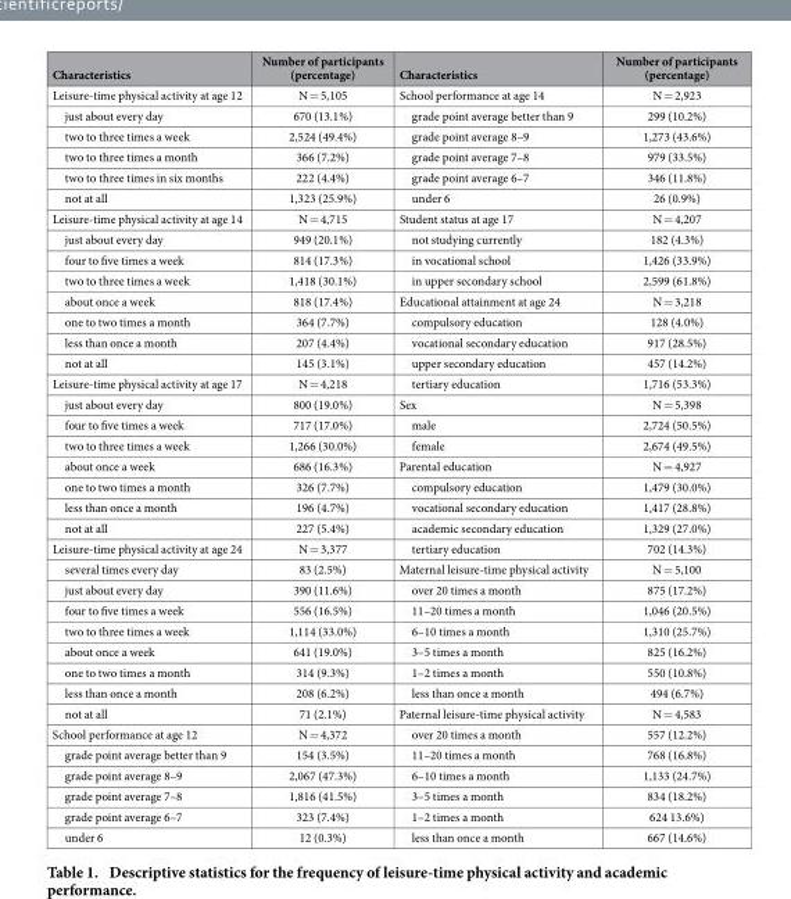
<table><thead><tr><td>Characteristics</td><td>Number of participants (percentage)</td><td>Characteristics</td><td>Number of participants (percentage)</td></tr></thead><tbody><tr><td>Leisure-time physical activity at age 12</td><td>N = 5,105</td><td>School performance at age 14</td><td>N = 2,923</td></tr><tr><td>just about every day</td><td>670 (13.1%)</td><td>grade point average better than 9</td><td>299 (10.2%)</td></tr><tr><td>two to three times a week</td><td>2,524 (49.4%)</td><td>grade point average 8–9</td><td>1,273 (43.6%)</td></tr><tr><td>two to three times a month</td><td>366 (7.2%)</td><td>grade point average 7–8</td><td>979 (33.5%)</td></tr><tr><td>two to three times in six months</td><td>222 (4.4%)</td><td>grade point average 6–7</td><td>346 (11.8%)</td></tr><tr><td>not at all</td><td>1,323 (25.9%)</td><td>under 6</td><td>26 (0.9%)</td></tr><tr><td>Leisure-time physical activity at age 14</td><td>N = 4,715</td><td>Student status at age 17</td><td>N = 4,207</td></tr><tr><td>just about every day</td><td>949 (20.1%)</td><td>not studying currently</td><td>182 (4.3%)</td></tr><tr><td>four to five times a week</td><td>814 (17.3%)</td><td>in vocational school</td><td>1,426 (33.9%)</td></tr><tr><td>two to three times a week</td><td>1,418 (30.1%)</td><td>in upper secondary school</td><td>2,599 (61.8%)</td></tr><tr><td>about once a week</td><td>818 (17.4%)</td><td>Educational attainment at age 24</td><td>N = 3,218</td></tr><tr><td>one to two times a month</td><td>364 (7.7%)</td><td>compulsory education</td><td>128 (4.0%)</td></tr><tr><td>less than once a month</td><td>207 (4.4%)</td><td>vocational secondary education</td><td>917 (28.5%)</td></tr><tr><td>not at all</td><td>145 (3.1%)</td><td>upper secondary education</td><td>457 (14.2%)</td></tr><tr><td>Leisure-time physical activity at age 17</td><td>N = 4,218</td><td>tertiary education</td><td>1,716 (53.3%)</td></tr><tr><td>just about every day</td><td>800 (19.0%)</td><td>Sex</td><td>N = 5,398</td></tr><tr><td>four to five times a week</td><td>717 (17.0%)</td><td>male</td><td>2,724 (50.5%)</td></tr><tr><td>two to three times a week</td><td>1,266 (30.0%)</td><td>female</td><td>2,674 (49.5%)</td></tr><tr><td>about once a week</td><td>686 (16.3%)</td><td>Parental education</td><td>N = 4,927</td></tr><tr><td>one to two times a month</td><td>326 (7.7%)</td><td>compulsory education</td><td>1,479 (30.0%)</td></tr><tr><td>less than once a month</td><td>196 (4.7%)</td><td>vocational secondary education</td><td>1,417 (28.8%)</td></tr><tr><td>not at all</td><td>227 (5.4%)</td><td>academic secondary education</td><td>1,329 (27.0%)</td></tr><tr><td>Leisure-time physical activity at age 24</td><td>N = 3,377</td><td>tertiary education</td><td>702 (14.3%)</td></tr><tr><td>several times every day</td><td>83 (2.5%)</td><td>Maternal leisure-time physical activity</td><td>N = 5,100</td></tr><tr><td>just about every day</td><td>390 (11.6%)</td><td>over 20 times a month</td><td>875 (17.2%)</td></tr><tr><td>four to five times a week</td><td>556 (16.5%)</td><td>11–20 times a month</td><td>1,046 (20.5%)</td></tr><tr><td>two to three times a week</td><td>1,114 (33.0%)</td><td>6–10 times a month</td><td>1,310 (25.7%)</td></tr><tr><td>about once a week</td><td>641 (19.0%)</td><td>3–5 times a month</td><td>825 (16.2%)</td></tr><tr><td>one to two times a month</td><td>314 (9.3%)</td><td>1–2 times a month</td><td>550 (10.8%)</td></tr><tr><td>less than once a month</td><td>208 (6.2%)</td><td>less than once a month</td><td>494 (6.7%)</td></tr><tr><td>not at all</td><td>71 (2.1%)</td><td>Paternal leisure-time physical activity</td><td>N = 4,583</td></tr><tr><td>School performance at age 12</td><td>N = 4,372</td><td>over 20 times a month</td><td>557 (12.2%)</td></tr><tr><td>grade point average better than 9</td><td>154 (3.5%)</td><td>11–20 times a month</td><td>768 (16.8%)</td></tr><tr><td>grade point average 8–9</td><td>2,067 (47.3%)</td><td>6–10 times a month</td><td>1,133 (24.7%)</td></tr><tr><td>grade point average 7–8</td><td>1,816 (41.5%)</td><td>3–5 times a month</td><td>834 (18.2%)</td></tr><tr><td>grade point average 6–7</td><td>323 (7.4%)</td><td>1–2 times a month</td><td>624 13.6%)</td></tr><tr><td>under 6</td><td>12 (0.3%)</td><td>less than once a month</td><td>667 (14.6%)</td></tr></tbody></table>